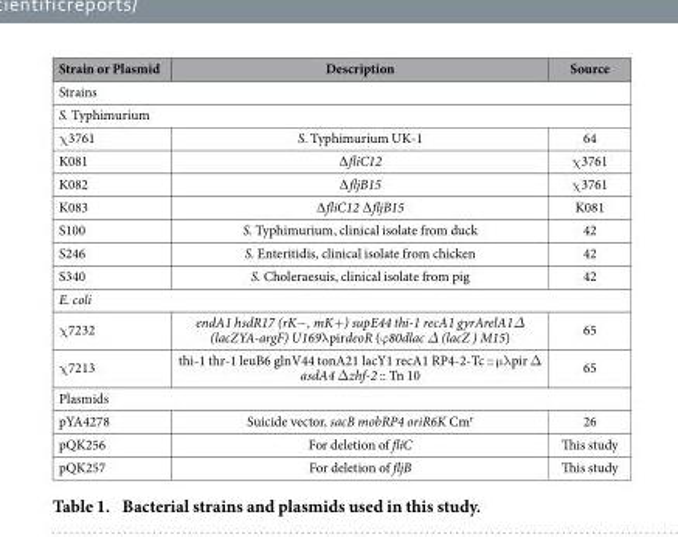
<table><thead><tr><td>Strain or Plasmid</td><td>Description</td><td>Source</td></tr></thead><tbody><tr><td colspan="3">Strains</td></tr><tr><td colspan="3">S. Typhimurium</td></tr><tr><td>χ 3761</td><td>S. Typhimurium UK-1</td><td>64</td></tr><tr><td>K081</td><td>∆ fliC12</td><td>χ 3761</td></tr><tr><td>K082</td><td>∆ fljB15</td><td>χ 3761</td></tr><tr><td>K083</td><td>∆ fliC12 ∆ fljB15</td><td>K081</td></tr><tr><td>S100</td><td>S. Typhimurium, clinical isolate from duck</td><td>42</td></tr><tr><td>S246</td><td>S. Enteritidis, clinical isolate from chicken</td><td>42</td></tr><tr><td>S340</td><td>S. Choleraesuis, clinical isolate from pig</td><td>42</td></tr><tr><td colspan="3">E. coli</td></tr><tr><td>χ 7232</td><td>endA1 hsdR17 (rK−, mK+) supE44 thi-1 recA1 gyrArelA1Δ (lacZYA-argF) U169λ pirdeoR (ϕ 80dlac Δ (lacZ ) M15)</td><td>65</td></tr><tr><td>χ 7213</td><td>thi-1 thr-1 leuB6 glnV44 tonA21 lacY1 recA1 RP4-2-Tc :: μ λ pir Δ asdA4 Δ zhf-2 :: Tn 10</td><td>65</td></tr><tr><td colspan="3">Plasmids</td></tr><tr><td>pYA4278</td><td>Suicide vector, sacB mobRP4 oriR6K Cm<sup>r</sup></td><td>26</td></tr><tr><td>pQK256</td><td>For deletion of fliC</td><td>This study</td></tr><tr><td>pQK257</td><td>For deletion of fljB</td><td>This study</td></tr></tbody></table>